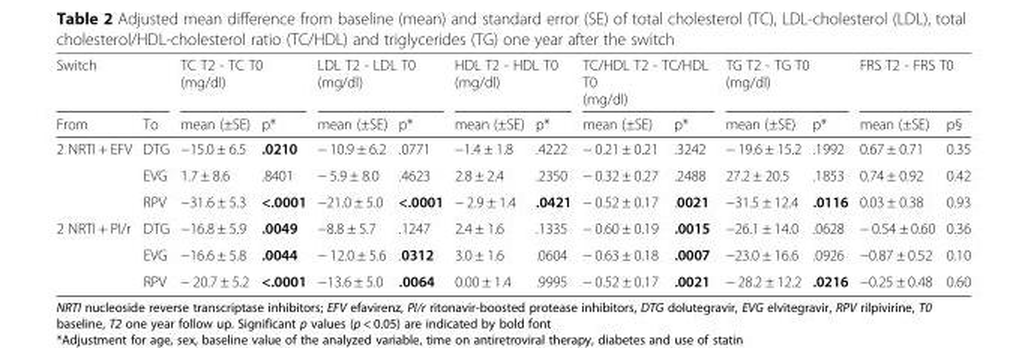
<table><thead><tr><td colspan="2">Switch</td><td colspan="2">TC T2 - TC T0 (mg/dl)</td><td colspan="2">LDL T2 - LDL T0 (mg/dl)</td><td colspan="2">HDL T2 - HDL T0 (mg/dl)</td><td colspan="2">TC/HDL T2 - TC/HDL T0 (mg/dl)</td><td colspan="2">TG T2 - TG T0 (mg/dl)</td><td colspan="2">FRS T2 - FRS T0</td></tr><tr><td>From</td><td>To</td><td>mean (±SE)</td><td>p*</td><td>mean (±SE)</td><td>p*</td><td>mean (±SE)</td><td>p*</td><td>mean (±SE)</td><td>p*</td><td>mean (±SE)</td><td>p*</td><td>mean (±SE)</td><td>p§</td></tr></thead><tbody><tr><td rowspan="3">2 NRTI + EFV</td><td>DTG</td><td>−15.0 ± 6.5</td><td>.0210</td><td>− 10.9 ± 6.2</td><td>.0771</td><td>−1.4 ± 1.8</td><td>.4222</td><td>− 0.21 ± 0.21</td><td>.3242</td><td>− 19.6 ± 15.2</td><td>.1992</td><td>0.67 ± 0.71</td><td>0.35</td></tr><tr><td>EVG</td><td>1.7 ± 8.6</td><td>.8401</td><td>− 5.9 ± 8.0</td><td>.4623</td><td>2.8 ± 2.4</td><td>.2350</td><td>− 0.32 ± 0.27</td><td>.2488</td><td>27.2 ± 20.5</td><td>.1853</td><td>0.74 ± 0.92</td><td>0.42</td></tr><tr><td>RPV</td><td>−31.6 ± 5.3</td><td>&lt;.0001</td><td>−21.0 ± 5.0</td><td>&lt;.0001</td><td>− 2.9 ± 1.4</td><td>.0421</td><td>− 0.52 ± 0.17</td><td>.0021</td><td>−31.5 ± 12.4</td><td>.0116</td><td>0.03 ± 0.38</td><td>0.93</td></tr><tr><td rowspan="3">2 NRTI + PI/r</td><td>DTG</td><td>−16.8 ± 5.9</td><td>.0049</td><td>−8.8 ± 5.7</td><td>.1247</td><td>2.4 ± 1.6</td><td>.1335</td><td>− 0.60 ± 0.19</td><td>.0015</td><td>−26.1 ± 14.0</td><td>.0628</td><td>− 0.54 ± 0.60</td><td>0.36</td></tr><tr><td>EVG</td><td>−16.6 ± 5.8</td><td>.0044</td><td>− 12.0 ± 5.6</td><td>.0312</td><td>3.0 ± 1.6</td><td>.0604</td><td>− 0.63 ± 0.18</td><td>.0007</td><td>−23.0 ± 16.6</td><td>.0926</td><td>−0.87 ± 0.52</td><td>0.10</td></tr><tr><td>RPV</td><td>− 20.7 ± 5.2</td><td>&lt;.0001</td><td>−13.6 ± 5.0</td><td>.0064</td><td>0.00 ± 1.4</td><td>.9995</td><td>− 0.52 ± 0.17</td><td>.0021</td><td>− 28.2 ± 12.2</td><td>.0216</td><td>−0.25 ± 0.48</td><td>0.60</td></tr></tbody></table>